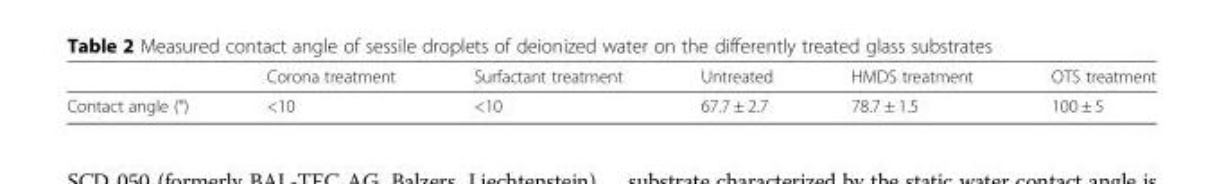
<table><thead><tr><td></td><td>Corona treatment</td><td>Surfactant treatment</td><td>Untreated</td><td>HMDS treatment</td><td>OTS treatment</td></tr></thead><tbody><tr><td>Contact angle (°)</td><td>&lt;10</td><td>&lt;10</td><td>67.7 ± 2.7</td><td>78.7 ± 1.5</td><td>100 ± 5</td></tr></tbody></table>